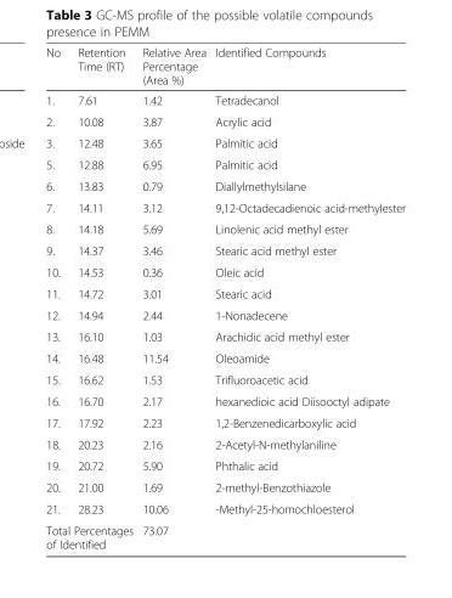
<table><thead><tr><td>No</td><td>Retention Time (RT)</td><td>Relative Area Percentage (Area %)</td><td>Identified Compounds</td></tr></thead><tbody><tr><td>1.</td><td>7.61</td><td>1.42</td><td>Tetradecanol</td></tr><tr><td>2.</td><td>10.08</td><td>3.87</td><td>Acrylic acid</td></tr><tr><td>3.</td><td>12.48</td><td>3.65</td><td>Palmitic acid</td></tr><tr><td>5.</td><td>12.88</td><td>6.95</td><td>Palmitic acid</td></tr><tr><td>6.</td><td>13.83</td><td>0.79</td><td>Diallylmethylsilane</td></tr><tr><td>7.</td><td>14.11</td><td>3.12</td><td>9,12-Octadecadienoic acid-methylester</td></tr><tr><td>8.</td><td>14.18</td><td>5.69</td><td>Linolenic acid methyl ester</td></tr><tr><td>9.</td><td>14.37</td><td>3.46</td><td>Stearic acid methyl ester</td></tr><tr><td>10.</td><td>14.53</td><td>0.36</td><td>Oleic acid</td></tr><tr><td>11.</td><td>14.72</td><td>3.01</td><td>Stearic acid</td></tr><tr><td>12.</td><td>14.94</td><td>2.44</td><td>1-Nonadecene</td></tr><tr><td>13.</td><td>16.10</td><td>1.03</td><td>Arachidic acid methyl ester</td></tr><tr><td>14.</td><td>16.48</td><td>11.54</td><td>Oleoamide</td></tr><tr><td>15.</td><td>16.62</td><td>1.53</td><td>Trifluoroacetic acid</td></tr><tr><td>16.</td><td>16.70</td><td>2.17</td><td>hexanedioic acid Diisooctyl adipate</td></tr><tr><td>17.</td><td>17.92</td><td>2.23</td><td>1,2-Benzenedicarboxylic acid</td></tr><tr><td>18.</td><td>20.23</td><td>2.16</td><td>2-Acetyl-N-methylaniline</td></tr><tr><td>19.</td><td>20.72</td><td>5.90</td><td>Phthalic acid</td></tr><tr><td>20.</td><td>21.00</td><td>1.69</td><td>2-methyl-Benzothiazole</td></tr><tr><td>21.</td><td>28.23</td><td>10.06</td><td>-Methyl-25-homochloesterol</td></tr><tr><td colspan="2">Total Percentages of Identified</td><td>73.07</td><td></td></tr></tbody></table>